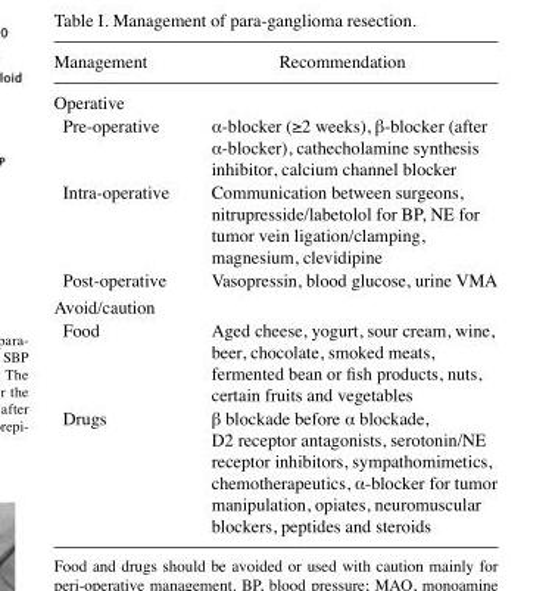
<table><thead><tr><td>Management</td><td>Recommendation</td></tr></thead><tbody><tr><td colspan="2">Operative</td></tr><tr><td>Pre-operative</td><td>α‑blocker (≥2 weeks), β-blocker (after α-blocker), cathecholamine synthesis inhibitor, calcium channel blocker</td></tr><tr><td>Intra-operative</td><td>Communication between surgeons, nitrupresside/labetolol for BP, NE for tumor vein ligation/clamping, magnesium, clevidipine</td></tr><tr><td>Post-operative</td><td>Vasopressin, blood glucose, urine VMA</td></tr><tr><td colspan="2">Avoid/caution</td></tr><tr><td>Food</td><td>Aged cheese, yogurt, sour cream, wine, beer, chocolate, smoked meats, fermented bean or fish products, nuts, certain fruits and vegetables</td></tr><tr><td>Drugs</td><td>β blockade before α blockade, D2 receptor antagonists, serotonin/NE receptor inhibitors, sympathomimetics, chemotherapeutics, α-blocker for tumor manipulation, opiates, neuromuscular blockers, peptides and steroids</td></tr></tbody></table>